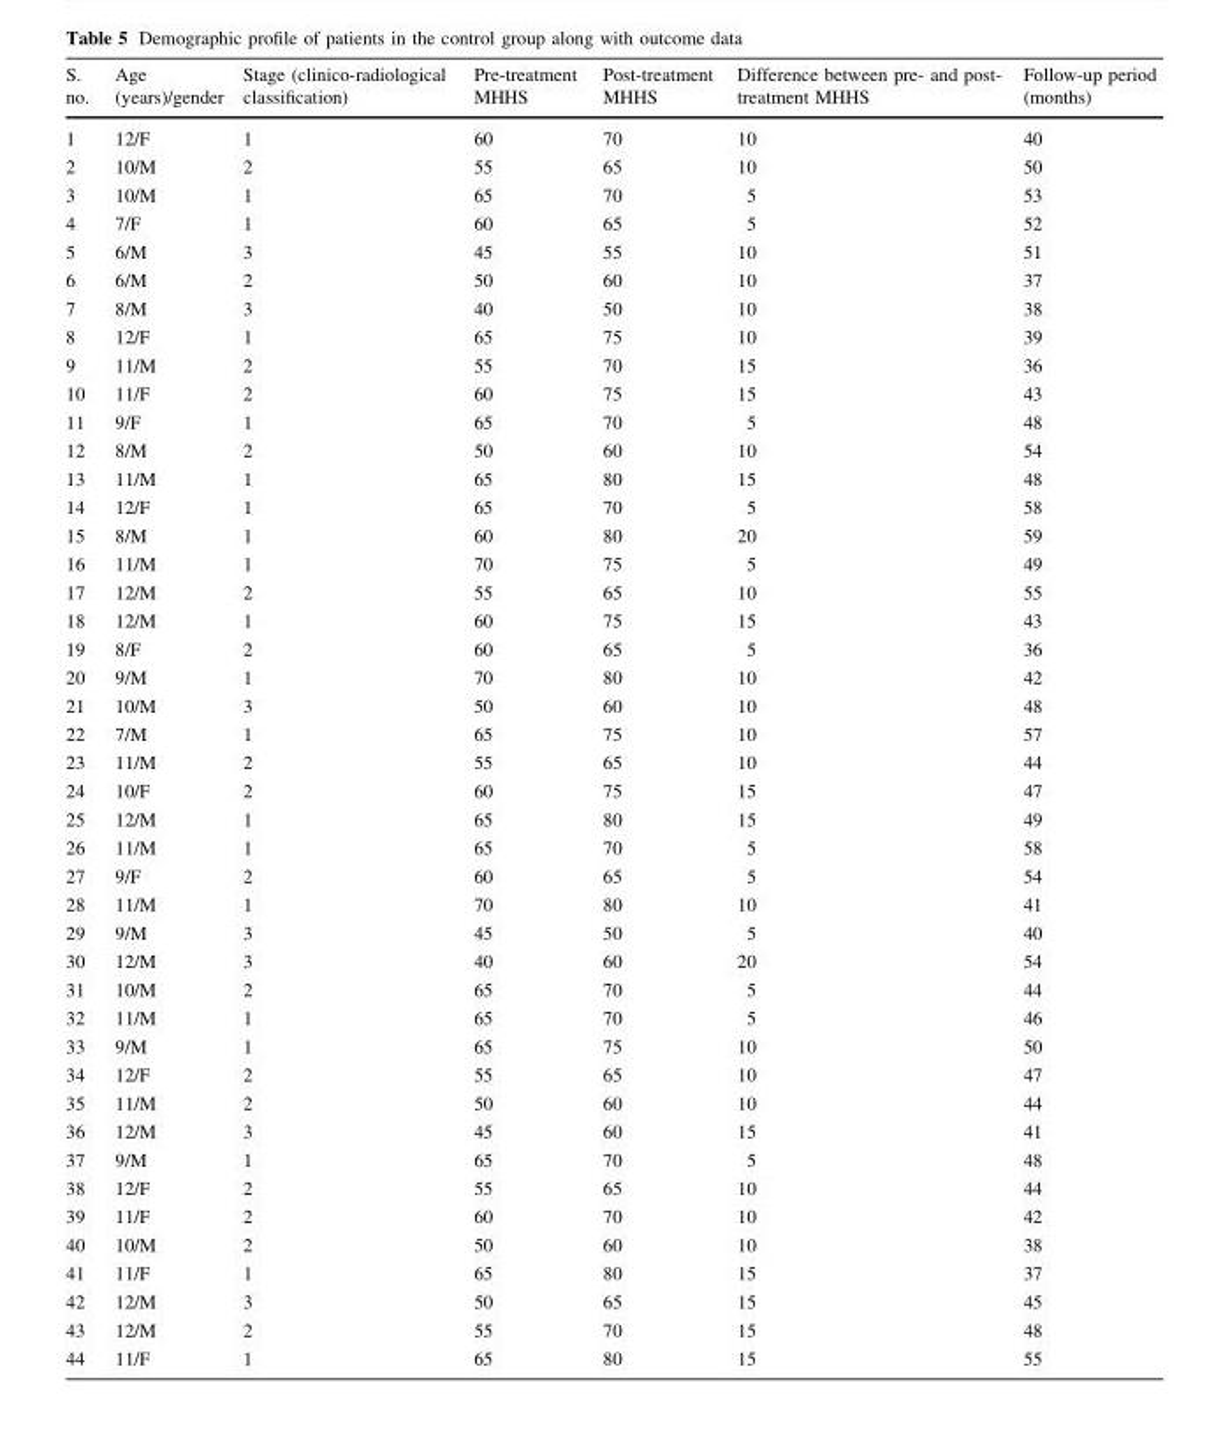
<table><thead><tr><td>S. no.</td><td>Age (years)/gender</td><td>Stage (clinico-radiological classification)</td><td>Pre-treatment MHHS</td><td>Post-treatment MHHS</td><td>Difference between pre- and post- treatment MHHS</td><td>Follow-up period (months)</td></tr></thead><tbody><tr><td>1</td><td>12/F</td><td>1</td><td>60</td><td>70</td><td>10</td><td>40</td></tr><tr><td>2</td><td>10/M</td><td>2</td><td>55</td><td>65</td><td>10</td><td>50</td></tr><tr><td>3</td><td>10/M</td><td>1</td><td>65</td><td>70</td><td>5</td><td>53</td></tr><tr><td>4</td><td>7/F</td><td>1</td><td>60</td><td>65</td><td>5</td><td>52</td></tr><tr><td>5</td><td>6/M</td><td>3</td><td>45</td><td>55</td><td>10</td><td>51</td></tr><tr><td>6</td><td>6/M</td><td>2</td><td>50</td><td>60</td><td>10</td><td>37</td></tr><tr><td>7</td><td>8/M</td><td>3</td><td>40</td><td>50</td><td>10</td><td>38</td></tr><tr><td>8</td><td>12/F</td><td>1</td><td>65</td><td>75</td><td>10</td><td>39</td></tr><tr><td>9</td><td>11/M</td><td>2</td><td>55</td><td>70</td><td>15</td><td>36</td></tr><tr><td>10</td><td>11/F</td><td>2</td><td>60</td><td>75</td><td>15</td><td>43</td></tr><tr><td>11</td><td>9/F</td><td>1</td><td>65</td><td>70</td><td>5</td><td>48</td></tr><tr><td>12</td><td>8/M</td><td>2</td><td>50</td><td>60</td><td>10</td><td>54</td></tr><tr><td>13</td><td>11/M</td><td>1</td><td>65</td><td>80</td><td>15</td><td>48</td></tr><tr><td>14</td><td>12/F</td><td>1</td><td>65</td><td>70</td><td>5</td><td>58</td></tr><tr><td>15</td><td>8/M</td><td>1</td><td>60</td><td>80</td><td>20</td><td>59</td></tr><tr><td>16</td><td>11/M</td><td>1</td><td>70</td><td>75</td><td>5</td><td>49</td></tr><tr><td>17</td><td>12/M</td><td>2</td><td>55</td><td>65</td><td>10</td><td>55</td></tr><tr><td>18</td><td>12/M</td><td>1</td><td>60</td><td>75</td><td>15</td><td>43</td></tr><tr><td>19</td><td>8/F</td><td>2</td><td>60</td><td>65</td><td>5</td><td>36</td></tr><tr><td>20</td><td>9/M</td><td>1</td><td>70</td><td>80</td><td>10</td><td>42</td></tr><tr><td>21</td><td>10/M</td><td>3</td><td>50</td><td>60</td><td>10</td><td>48</td></tr><tr><td>22</td><td>7/M</td><td>1</td><td>65</td><td>75</td><td>10</td><td>57</td></tr><tr><td>23</td><td>11/M</td><td>2</td><td>55</td><td>65</td><td>10</td><td>44</td></tr><tr><td>24</td><td>10/F</td><td>2</td><td>60</td><td>75</td><td>15</td><td>47</td></tr><tr><td>25</td><td>12/M</td><td>1</td><td>65</td><td>80</td><td>15</td><td>49</td></tr><tr><td>26</td><td>11/M</td><td>1</td><td>65</td><td>70</td><td>5</td><td>58</td></tr><tr><td>27</td><td>9/F</td><td>2</td><td>60</td><td>65</td><td>5</td><td>54</td></tr><tr><td>28</td><td>11/M</td><td>1</td><td>70</td><td>80</td><td>10</td><td>41</td></tr><tr><td>29</td><td>9/M</td><td>3</td><td>45</td><td>50</td><td>5</td><td>40</td></tr><tr><td>30</td><td>12/M</td><td>3</td><td>40</td><td>60</td><td>20</td><td>54</td></tr><tr><td>31</td><td>10/M</td><td>2</td><td>65</td><td>70</td><td>5</td><td>44</td></tr><tr><td>32</td><td>11/M</td><td>1</td><td>65</td><td>70</td><td>5</td><td>46</td></tr><tr><td>33</td><td>9/M</td><td>1</td><td>65</td><td>75</td><td>10</td><td>50</td></tr><tr><td>34</td><td>12/F</td><td>2</td><td>55</td><td>65</td><td>10</td><td>47</td></tr><tr><td>35</td><td>11/M</td><td>2</td><td>50</td><td>60</td><td>10</td><td>44</td></tr><tr><td>36</td><td>12/M</td><td>3</td><td>45</td><td>60</td><td>15</td><td>41</td></tr><tr><td>37</td><td>9/M</td><td>1</td><td>65</td><td>70</td><td>5</td><td>48</td></tr><tr><td>38</td><td>12/F</td><td>2</td><td>55</td><td>65</td><td>10</td><td>44</td></tr><tr><td>39</td><td>11/F</td><td>2</td><td>60</td><td>70</td><td>10</td><td>42</td></tr><tr><td>40</td><td>10/M</td><td>2</td><td>50</td><td>60</td><td>10</td><td>38</td></tr><tr><td>41</td><td>11/F</td><td>1</td><td>65</td><td>80</td><td>15</td><td>37</td></tr><tr><td>42</td><td>12/M</td><td>3</td><td>50</td><td>65</td><td>15</td><td>45</td></tr><tr><td>43</td><td>12/M</td><td>2</td><td>55</td><td>70</td><td>15</td><td>48</td></tr><tr><td>44</td><td>11/F</td><td>1</td><td>65</td><td>80</td><td>15</td><td>55</td></tr></tbody></table>